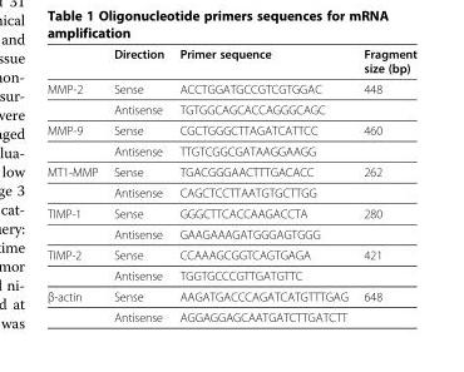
<table><thead><tr><td></td><td>Direction</td><td>Primer sequence</td><td>Fragment size (bp)</td></tr></thead><tbody><tr><td rowspan="2">MMP-2</td><td>Sense</td><td>ACCTGGATGCCGTCGTGGAC</td><td>448</td></tr><tr><td>Antisense</td><td>TGTGGCAGCACCAGGGCAGC</td><td></td></tr><tr><td rowspan="2">MMP-9</td><td>Sense</td><td>CGCTGGGCTTAGATCATTCC</td><td>460</td></tr><tr><td>Antisense</td><td>TTGTCGGCGATAAGGAAGG</td><td></td></tr><tr><td rowspan="2">MT1-MMP</td><td>Sense</td><td>TGACGGGAACTTTGACACC</td><td>262</td></tr><tr><td>Antisense</td><td>CAGCTCCTTAATGTGCTTGG</td><td></td></tr><tr><td rowspan="2">TIMP-1</td><td>Sense</td><td>GGGCTTCACCAAGACCTA</td><td>280</td></tr><tr><td>Antisense</td><td>GAAGAAAGATGGGAGTGGG</td><td></td></tr><tr><td rowspan="2">TIMP-2</td><td>Sense</td><td>CCAAAGCGGTCAGTGAGA</td><td>421</td></tr><tr><td>Antisense</td><td>TGGTGCCCGTTGATGTTC</td><td></td></tr><tr><td rowspan="2">β-actin</td><td>Sense</td><td>AAGATGACCCAGATCATGTTTGAG</td><td>648</td></tr><tr><td>Antisense</td><td>AGGAGGAGCAATGATCTTGATCTT</td><td></td></tr></tbody></table>